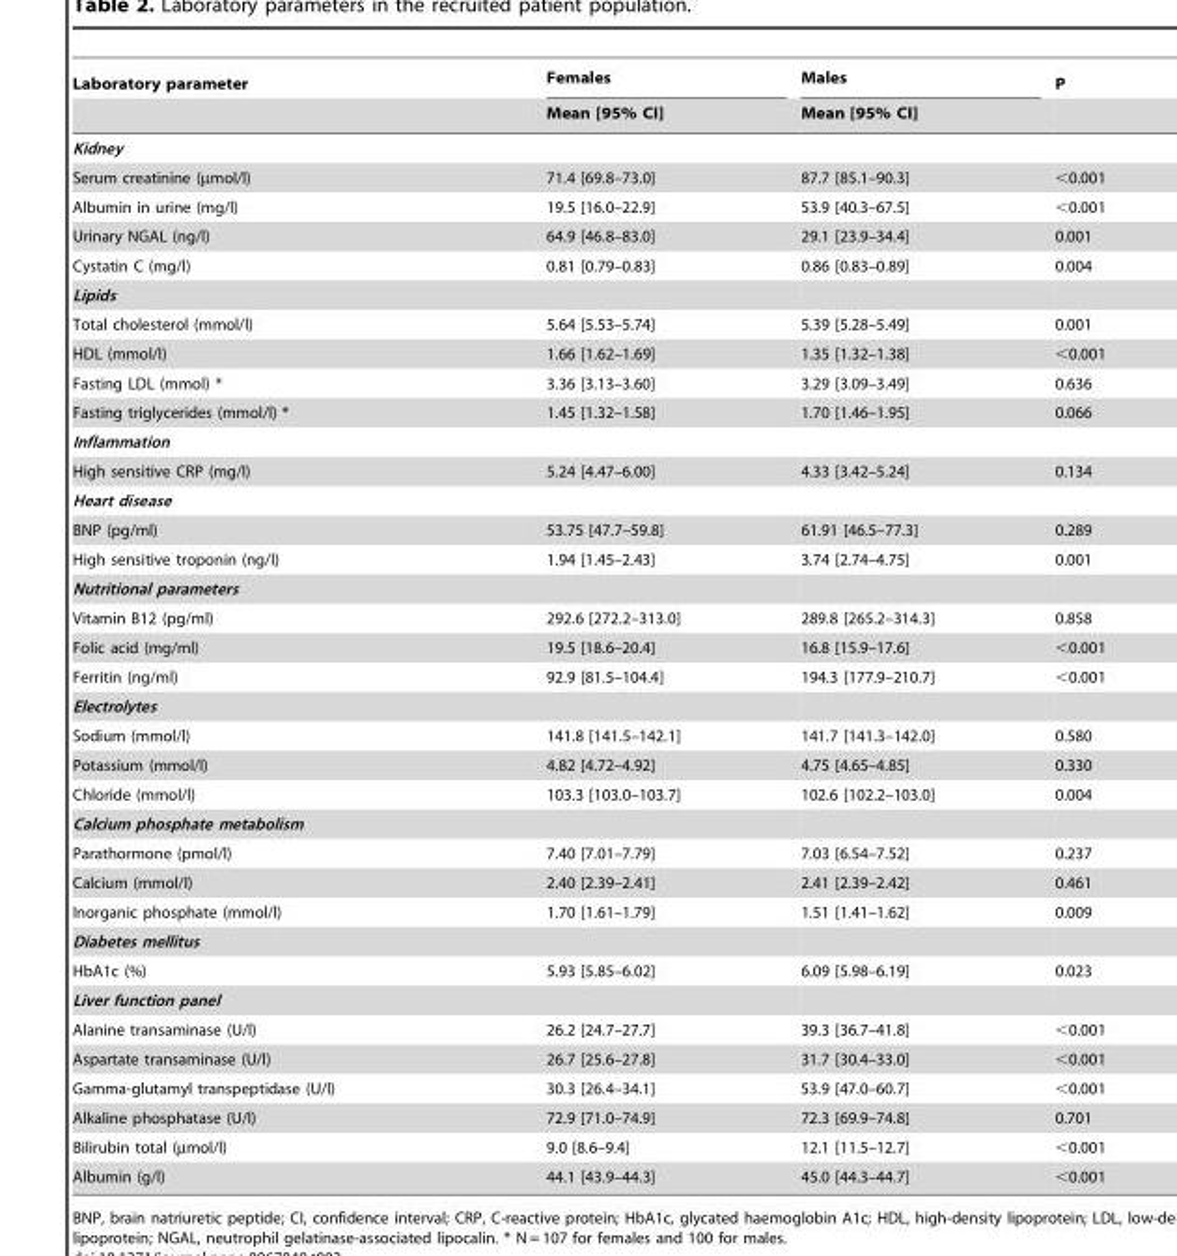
<table><thead><tr><td rowspan="2">Laboratory parameter</td><td rowspan="2">Females Mean [95% CI]</td><td rowspan="2">Males Mean [95% CI]</td><td rowspan="2">P</td></tr><tr></tr></thead><tbody><tr><td colspan="4">Kidney</td></tr><tr><td>Serum creatinine (µmol/l)</td><td>71.4 [69.8–73.0]</td><td>87.7 [85.1–90.3]</td><td>&lt;0.001</td></tr><tr><td>Albumin in urine (mg/l)</td><td>19.5 [16.0–22.9]</td><td>53.9 [40.3–67.5]</td><td>&lt;0.001</td></tr><tr><td>Urinary NGAL (ng/l)</td><td>64.9 [46.8–83.0]</td><td>29.1 [23.9–34.4]</td><td>0.001</td></tr><tr><td>Cystatin C (mg/l)</td><td>0.81 [0.79–0.83]</td><td>0.86 [0.83–0.89]</td><td>0.004</td></tr><tr><td colspan="4">Lipids</td></tr><tr><td>Total cholesterol (mmol/l)</td><td>5.64 [5.53–5.74]</td><td>5.39 [5.28–5.49]</td><td>0.001</td></tr><tr><td>HDL (mmol/l)</td><td>1.66 [1.62–1.69]</td><td>1.35 [1.32–1.38]</td><td>&lt;0.001</td></tr><tr><td>Fasting LDL (mmol) *</td><td>3.36 [3.13–3.60]</td><td>3.29 [3.09–3.49]</td><td>0.636</td></tr><tr><td>Fasting triglycerides (mmol/l) *</td><td>1.45 [1.32–1.58]</td><td>1.70 [1.46–1.95]</td><td>0.066</td></tr><tr><td colspan="4">Inflammation</td></tr><tr><td>High sensitive CRP (mg/l)</td><td>5.24 [4.47–6.00]</td><td>4.33 [3.42–5.24]</td><td>0.134</td></tr><tr><td colspan="4">Heart disease</td></tr><tr><td>BNP (pg/ml)</td><td>53.75 [47.7–59.8]</td><td>61.91 [46.5–77.3]</td><td>0.289</td></tr><tr><td>High sensitive troponin (ng/l)</td><td>1.94 [1.45–2.43]</td><td>3.74 [2.74–4.75]</td><td>0.001</td></tr><tr><td colspan="4">Nutritional parameters</td></tr><tr><td>Vitamin B12 (pg/ml)</td><td>292.6 [272.2–313.0]</td><td>289.8 [265.2–314.3]</td><td>0.858</td></tr><tr><td>Folic acid (mg/ml)</td><td>19.5 [18.6–20.4]</td><td>16.8 [15.9–17.6]</td><td>&lt;0.001</td></tr><tr><td>Ferritin (ng/ml)</td><td>92.9 [81.5–104.4]</td><td>194.3 [177.9–210.7]</td><td>&lt;0.001</td></tr><tr><td colspan="4">Electrolytes</td></tr><tr><td>Sodium (mmol/l)</td><td>141.8 [141.5–142.1]</td><td>141.7 [141.3–142.0]</td><td>0.580</td></tr><tr><td>Potassium (mmol/l)</td><td>4.82 [4.72–4.92]</td><td>4.75 [4.65–4.85]</td><td>0.330</td></tr><tr><td>Chloride (mmol/l)</td><td>103.3 [103.0–103.7]</td><td>102.6 [102.2–103.0]</td><td>0.004</td></tr><tr><td colspan="4">Calcium phosphate metabolism</td></tr><tr><td>Parathormone (pmol/l)</td><td>7.40 [7.01–7.79]</td><td>7.03 [6.54–7.52]</td><td>0.237</td></tr><tr><td>Calcium (mmol/l)</td><td>2.40 [2.39–2.41]</td><td>2.41 [2.39–2.42]</td><td>0.461</td></tr><tr><td>Inorganic phosphate (mmol/l)</td><td>1.70 [1.61–1.79]</td><td>1.51 [1.41–1.62]</td><td>0.009</td></tr><tr><td colspan="4">Diabetes mellitus</td></tr><tr><td>HbA1c (%)</td><td>5.93 [5.85–6.02]</td><td>6.09 [5.98–6.19]</td><td>0.023</td></tr><tr><td colspan="4">Liver function panel</td></tr><tr><td>Alanine transaminase (U/l)</td><td>26.2 [24.7–27.7]</td><td>39.3 [36.7–41.8]</td><td>&lt;0.001</td></tr><tr><td>Aspartate transaminase (U/l)</td><td>26.7 [25.6–27.8]</td><td>31.7 [30.4–33.0]</td><td>&lt;0.001</td></tr><tr><td>Gamma-glutamyl transpeptidase (U/l)</td><td>30.3 [26.4–34.1]</td><td>53.9 [47.0–60.7]</td><td>&lt;0.001</td></tr><tr><td>Alkaline phosphatase (U/l)</td><td>72.9 [71.0–74.9]</td><td>72.3 [69.9–74.8]</td><td>0.701</td></tr><tr><td>Bilirubin total (µmol/l)</td><td>9.0 [8.6–9.4]</td><td>12.1 [11.5–12.7]</td><td>&lt;0.001</td></tr><tr><td>Albumin (g/l)</td><td>44.1 [43.9–44.3]</td><td>45.0 [44.3–44.7]</td><td>&lt;0.001</td></tr></tbody></table>